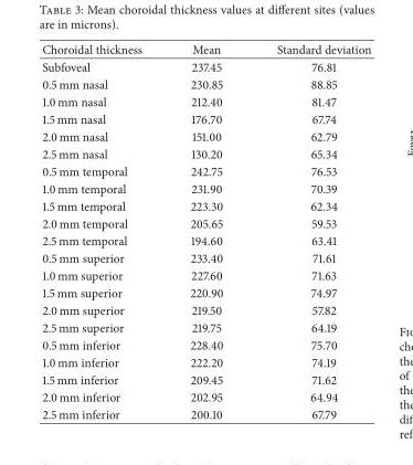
<table><thead><tr><td>Choroidal thickness</td><td>Mean</td><td>Standard deviation</td></tr></thead><tbody><tr><td>Subfoveal</td><td>237.45</td><td>76.81</td></tr><tr><td>0.5 mm nasal</td><td>230.85</td><td>88.85</td></tr><tr><td>1.0 mm nasal</td><td>212.40</td><td>81.47</td></tr><tr><td>1.5 mm nasal</td><td>176.70</td><td>67.74</td></tr><tr><td>2.0 mm nasal</td><td>151.00</td><td>62.79</td></tr><tr><td>2.5 mm nasal</td><td>130.20</td><td>65.34</td></tr><tr><td>0.5 mm temporal</td><td>242.75</td><td>76.53</td></tr><tr><td>1.0 mm temporal</td><td>231.90</td><td>70.39</td></tr><tr><td>1.5 mm temporal</td><td>223.30</td><td>62.34</td></tr><tr><td>2.0 mm temporal</td><td>205.65</td><td>59.53</td></tr><tr><td>2.5 mm temporal</td><td>194.60</td><td>63.41</td></tr><tr><td>0.5 mm superior</td><td>233.40</td><td>71.61</td></tr><tr><td>1.0 mm superior</td><td>227.60</td><td>71.63</td></tr><tr><td>1.5 mm superior</td><td>220.90</td><td>74.97</td></tr><tr><td>2.0 mm superior</td><td>219.50</td><td>57.82</td></tr><tr><td>2.5 mm superior</td><td>219.75</td><td>64.19</td></tr><tr><td>0.5 mm inferior</td><td>228.40</td><td>75.70</td></tr><tr><td>1.0 mm inferior</td><td>222.20</td><td>74.19</td></tr><tr><td>1.5 mm inferior</td><td>209.45</td><td>71.62</td></tr><tr><td>2.0 mm inferior</td><td>202.95</td><td>64.94</td></tr><tr><td>2.5 mm inferior</td><td>200.10</td><td>67.79</td></tr></tbody></table>